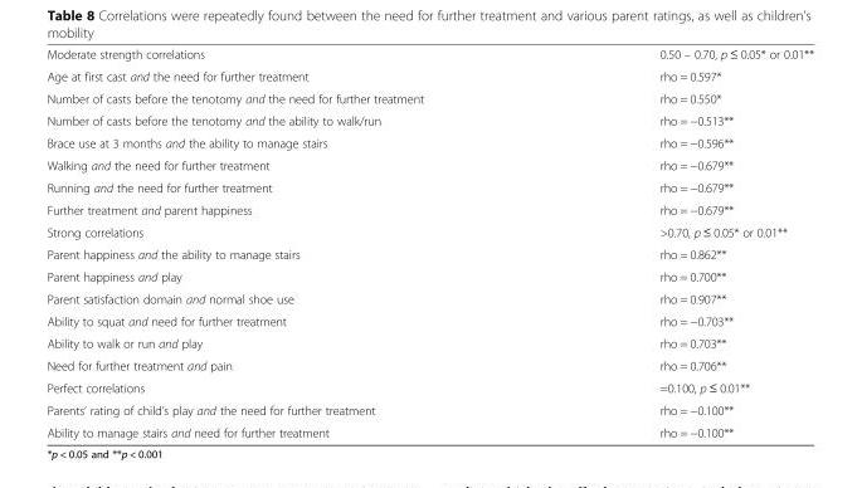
<table><tbody><tr><td>Moderate strength correlations</td><td>0.50 – 0.70, p ≤ 0.05* or 0.01**</td></tr><tr><td>Age at first cast and the need for further treatment</td><td>rho = 0.597*</td></tr><tr><td>Number of casts before the tenotomy and the need for further treatment</td><td>rho = 0.550*</td></tr><tr><td>Number of casts before the tenotomy and the ability to walk/run</td><td>rho = −0.513**</td></tr><tr><td>Brace use at 3 months and the ability to manage stairs</td><td>rho = −0.596**</td></tr><tr><td>Walking and the need for further treatment</td><td>rho = −0.679**</td></tr><tr><td>Running and the need for further treatment</td><td>rho = −0.679**</td></tr><tr><td>Further treatment and parent happiness</td><td>rho = −0.679**</td></tr><tr><td>Strong correlations</td><td>&gt;0.70, p ≤ 0.05* or 0.01**</td></tr><tr><td>Parent happiness and the ability to manage stairs</td><td>rho = 0.862**</td></tr><tr><td>Parent happiness and play</td><td>rho = 0.700**</td></tr><tr><td>Parent satisfaction domain and normal shoe use</td><td>rho = 0.907**</td></tr><tr><td>Ability to squat and need for further treatment</td><td>rho = −0.703**</td></tr><tr><td>Ability to walk or run and play</td><td>rho = 0.703**</td></tr><tr><td>Need for further treatment and pain</td><td>rho = 0.706**</td></tr><tr><td>Perfect correlations</td><td>=0.100, p ≤ 0.01**</td></tr><tr><td>Parents’ rating of child’s play and the need for further treatment</td><td>rho = −0.100**</td></tr><tr><td>Ability to manage stairs and need for further treatment</td><td>rho = −0.100**</td></tr></tbody></table>